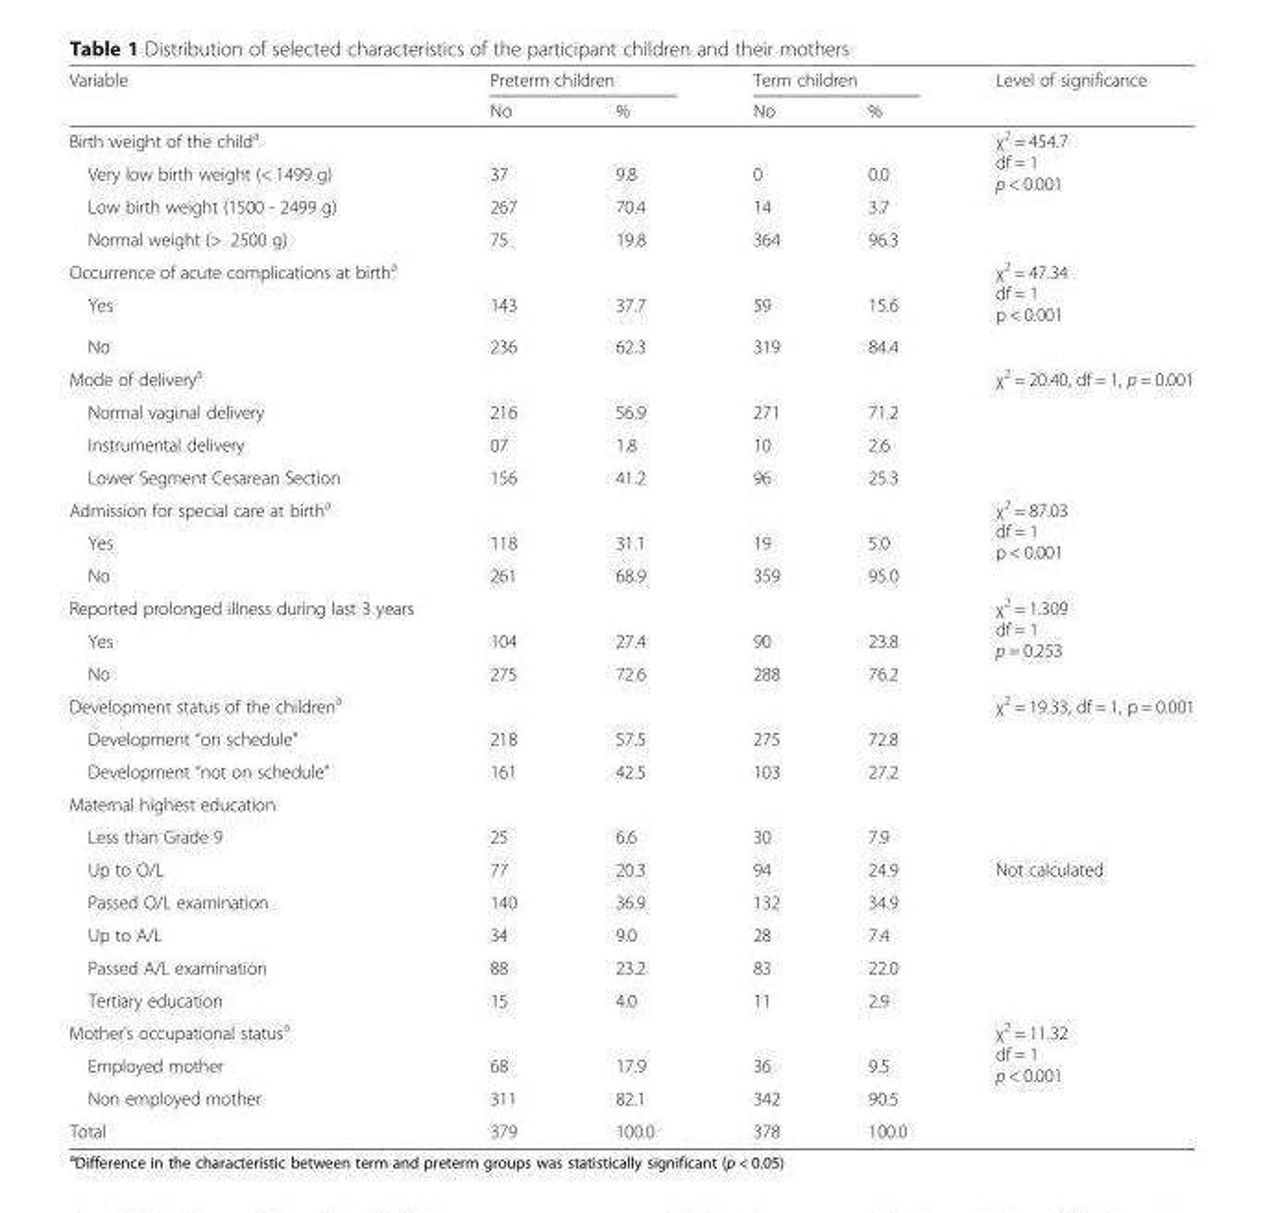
<table><thead><tr><td rowspan="2">Variable</td><td colspan="2">Preterm children</td><td colspan="2">Term children</td><td rowspan="2">Level of significance</td></tr><tr><td>No</td><td>%</td><td>No</td><td>%</td></tr></thead><tbody><tr><td colspan="5">Birth weight of the child<sup>a</sup></td><td rowspan="4">χ<sup>2</sup> = 454.7 df = 1 p &lt; 0.001</td></tr><tr><td>Very low birth weight (&lt; 1499 g)</td><td>37</td><td>9.8</td><td>0</td><td>0.0</td></tr><tr><td>Low birth weight (1500 - 2499 g)</td><td>267</td><td>70.4</td><td>14</td><td>3.7</td></tr><tr><td>Normal weight (&gt; 2500 g)</td><td>75</td><td>19.8</td><td>364</td><td>96.3</td></tr><tr><td colspan="5">Occurrence of acute complications at birth<sup>a</sup></td><td rowspan="2">χ<sup>2</sup> = 47.34 df = 1 p &lt; 0.001</td></tr><tr><td>Yes</td><td>143</td><td>37.7</td><td>59</td><td>15.6</td></tr><tr><td>No</td><td>236</td><td>62.3</td><td>319</td><td>84.4</td><td></td></tr><tr><td colspan="5">Mode of delivery<sup>a</sup></td><td rowspan="4">χ<sup>2</sup> = 20.40, df = 1, p = 0.001</td></tr><tr><td>Normal vaginal delivery</td><td>216</td><td>56.9</td><td>271</td><td>71.2</td></tr><tr><td>Instrumental delivery</td><td>07</td><td>1.8</td><td>10</td><td>2.6</td></tr><tr><td>Lower Segment Cesarean Section</td><td>156</td><td>41.2</td><td>96</td><td>25.3</td></tr><tr><td colspan="5">Admission for special care at birth<sup>a</sup></td><td rowspan="3">χ<sup>2</sup> = 87.03 df = 1 p &lt; 0.001</td></tr><tr><td>Yes</td><td>118</td><td>31.1</td><td>19</td><td>5.0</td></tr><tr><td>No</td><td>261</td><td>68.9</td><td>359</td><td>95.0</td></tr><tr><td colspan="5">Reported prolonged illness during last 3 years</td><td rowspan="3">χ<sup>2</sup> = 1.309 df = 1 p = 0.253</td></tr><tr><td>Yes</td><td>104</td><td>27.4</td><td>90</td><td>23.8</td></tr><tr><td>No</td><td>275</td><td>72.6</td><td>288</td><td>76.2</td></tr><tr><td colspan="5">Development status of the children<sup>a</sup></td><td rowspan="3">χ<sup>2</sup> = 19.33, df = 1, p = 0.001</td></tr><tr><td>Development “on schedule”</td><td>218</td><td>57.5</td><td>275</td><td>72.8</td></tr><tr><td>Development “not on schedule”</td><td>161</td><td>42.5</td><td>103</td><td>27.2</td></tr><tr><td colspan="6">Maternal highest education</td></tr><tr><td>Less than Grade 9</td><td>25</td><td>6.6</td><td>30</td><td>7.9</td><td></td></tr><tr><td>Up to O/L</td><td>77</td><td>20.3</td><td>94</td><td>24.9</td><td>Not calculated</td></tr><tr><td>Passed O/L examination</td><td>140</td><td>36.9</td><td>132</td><td>34.9</td><td></td></tr><tr><td>Up to A/L</td><td>34</td><td>9.0</td><td>28</td><td>7.4</td><td></td></tr><tr><td>Passed A/L examination</td><td>88</td><td>23.2</td><td>83</td><td>22.0</td><td></td></tr><tr><td>Tertiary education</td><td>15</td><td>4.0</td><td>11</td><td>2.9</td><td></td></tr><tr><td colspan="5">Mother’s occupational status<sup>a</sup></td><td rowspan="3">χ<sup>2</sup> = 11.32 df = 1 p &lt; 0.001</td></tr><tr><td>Employed mother</td><td>68</td><td>17.9</td><td>36</td><td>9.5</td></tr><tr><td>Non employed mother</td><td>311</td><td>82.1</td><td>342</td><td>90.5</td></tr><tr><td>Total</td><td>379</td><td>100.0</td><td>378</td><td>100.0</td><td></td></tr></tbody></table>